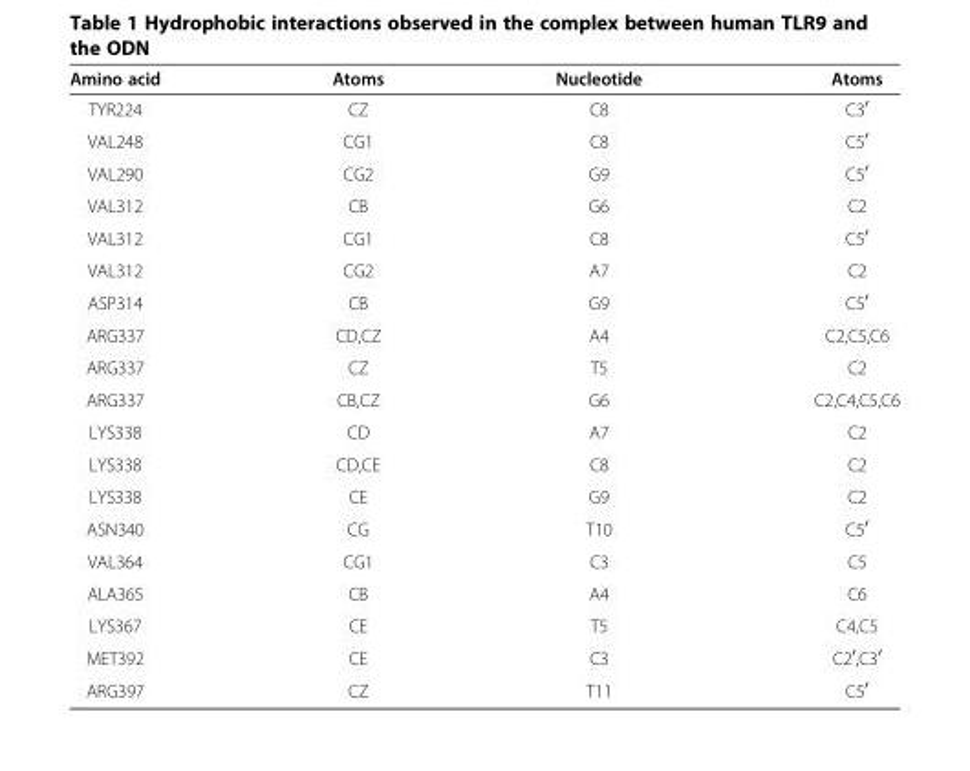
<table><thead><tr><td>Amino acid</td><td>Atoms</td><td>Nucleotide</td><td>Atoms</td></tr></thead><tbody><tr><td>TYR224</td><td>CZ</td><td>C8</td><td>C3<sup>′</sup></td></tr><tr><td>VAL248</td><td>CG1</td><td>C8</td><td>C5<sup>′</sup></td></tr><tr><td>VAL290</td><td>CG2</td><td>G9</td><td>C5<sup>′</sup></td></tr><tr><td>VAL312</td><td>CB</td><td>G6</td><td>C2</td></tr><tr><td>VAL312</td><td>CG1</td><td>C8</td><td>C5<sup>′</sup></td></tr><tr><td>VAL312</td><td>CG2</td><td>A7</td><td>C2</td></tr><tr><td>ASP314</td><td>CB</td><td>G9</td><td>C5<sup>′</sup></td></tr><tr><td>ARG337</td><td>CD,CZ</td><td>A4</td><td>C2,C5,C6</td></tr><tr><td>ARG337</td><td>CZ</td><td>T5</td><td>C2</td></tr><tr><td>ARG337</td><td>CB,CZ</td><td>G6</td><td>C2,C4,C5,C6</td></tr><tr><td>LYS338</td><td>CD</td><td>A7</td><td>C2</td></tr><tr><td>LYS338</td><td>CD,CE</td><td>C8</td><td>C2</td></tr><tr><td>LYS338</td><td>CE</td><td>G9</td><td>C2</td></tr><tr><td>ASN340</td><td>CG</td><td>T10</td><td>C5<sup>′</sup></td></tr><tr><td>VAL364</td><td>CG1</td><td>C3</td><td>C5</td></tr><tr><td>ALA365</td><td>CB</td><td>A4</td><td>C6</td></tr><tr><td>LYS367</td><td>CE</td><td>T5</td><td>C4,C5</td></tr><tr><td>MET392</td><td>CE</td><td>C3</td><td>C2<sup>′</sup>,C3<sup>′</sup></td></tr><tr><td>ARG397</td><td>CZ</td><td>T11</td><td>C5<sup>′</sup></td></tr></tbody></table>